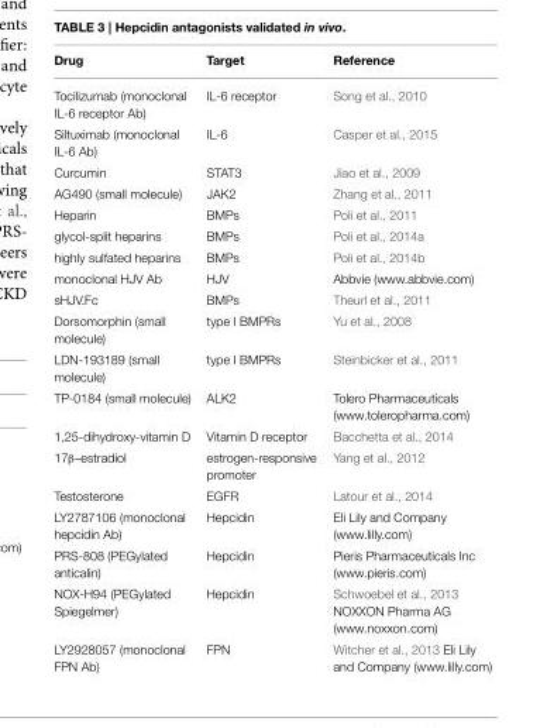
<table><thead><tr><td>Drug</td><td>Target</td><td>Reference</td></tr></thead><tbody><tr><td>Tocilizumab (monoclonal IL-6 receptor Ab)</td><td>IL-6 receptor</td><td>Song et al., 2010</td></tr><tr><td>Siltuximab (monoclonal IL-6 Ab)</td><td>IL-6</td><td>Casper et al., 2015</td></tr><tr><td>Curcumin</td><td>STAT3</td><td>Jiao et al., 2009</td></tr><tr><td>AG490 (small molecule)</td><td>JAK2</td><td>Zhang et al., 2011</td></tr><tr><td>Heparin</td><td>BMPs</td><td>Poli et al., 2011</td></tr><tr><td>glycol-split heparins</td><td>BMPs</td><td>Poli et al., 2014a</td></tr><tr><td>highly sulfated heparins</td><td>BMPs</td><td>Poli et al., 2014b</td></tr><tr><td>monoclonal HJV Ab</td><td>HJV</td><td>Abbvie (www.abbvie.com)</td></tr><tr><td>sHJV.Fc</td><td>BMPs</td><td>Theurl et al., 2011</td></tr><tr><td>Dorsomorphin (small molecule)</td><td>type I BMPRs</td><td>Yu et al., 2008</td></tr><tr><td>LDN-193189 (small molecule)</td><td>type I BMPRs</td><td>Steinbicker et al., 2011</td></tr><tr><td>TP-0184 (small molecule)</td><td>ALK2</td><td>Tolero Pharmaceuticals (www.toleropharma.com)</td></tr><tr><td>1,25-dihydroxy-vitamin D</td><td>Vitamin D receptor</td><td>Bacchetta et al., 2014</td></tr><tr><td>17β–estradiol</td><td>estrogen-responsive promoter</td><td>Yang et al., 2012</td></tr><tr><td>Testosterone</td><td>EGFR</td><td>Latour et al., 2014</td></tr><tr><td>LY2787106 (monoclonal hepcidin Ab)</td><td>Hepcidin</td><td>Eli Lily and Company (www.lilly.com)</td></tr><tr><td>PRS-808 (PEGylated anticalin)</td><td>Hepcidin</td><td>Pieris Pharmaceuticals Inc (www.pieris.com)</td></tr><tr><td>NOX-H94 (PEGylated Spiegelmer)</td><td>Hepcidin</td><td>Schwoebel et al., 2013 NOXXON Pharma AG (www.noxxon.com)</td></tr><tr><td>LY2928057 (monoclonal FPN Ab)</td><td>FPN</td><td>Witcher et al., 2013 Eli Lily and Company (www.lilly.com)</td></tr></tbody></table>